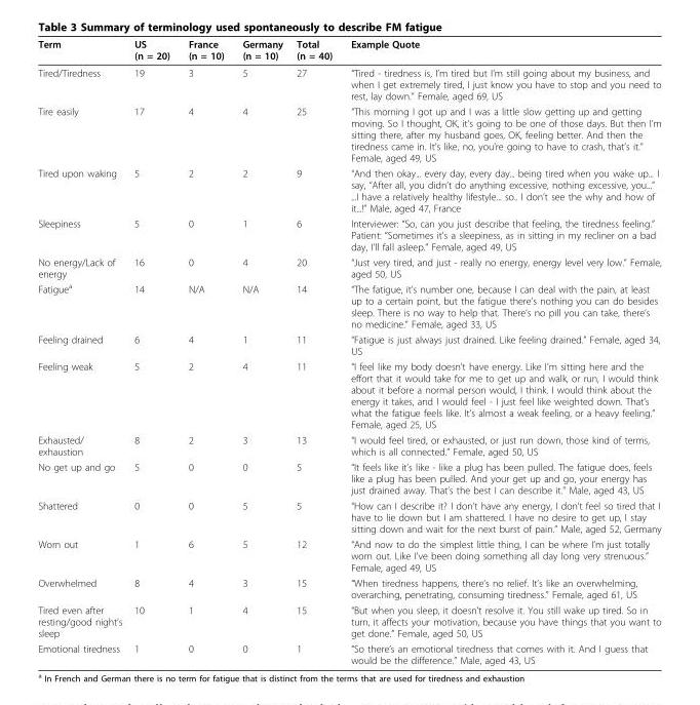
<table><thead><tr><td>Term</td><td>US (n = 20)</td><td>France (n = 10)</td><td>Germany (n = 10)</td><td>Total (n = 40)</td><td>Example Quote</td></tr></thead><tbody><tr><td>Tired/Tiredness</td><td>19</td><td>3</td><td>5</td><td>27</td><td>“Tired - tiredness is, I’m tired but I’m still going about my business, and when I get extremely tired, I just know you have to stop and you need to rest, lay down.” Female, aged 69, US</td></tr><tr><td>Tire easily</td><td>17</td><td>4</td><td>4</td><td>25</td><td>“This morning I got up and I was a little slow getting up and getting moving. So I thought, OK, it’s going to be one of those days. But then I’m sitting there, after my husband goes, OK, feeling better. And then the tiredness came in. It’s like, no, you’re going to have to crash, that’s it.” Female, aged 49, US</td></tr><tr><td>Tired upon waking</td><td>5</td><td>2</td><td>2</td><td>9</td><td>“And then okay... every day, every day... being tired when you wake up... I say, “After all, you didn’t do anything excessive, nothing excessive, you...” ...I have a relatively healthy lifestyle... so.. I don’t see the why and how of it...!” Male, aged 47, France</td></tr><tr><td>Sleepiness</td><td>5</td><td>0</td><td>1</td><td>6</td><td>Interviewer: “So, can you just describe that feeling, the tiredness feeling.” Patient: “Sometimes it’s a sleepiness, as in sitting in my recliner on a bad day, I’ll fall asleep.” Female, aged 49, US</td></tr><tr><td>No energy/Lack of energy</td><td>16</td><td>0</td><td>4</td><td>20</td><td>“Just very tired, and just - really no energy, energy level very low.” Female, aged 50, US</td></tr><tr><td>Fatigue<sup>a</sup></td><td>14</td><td>N/A</td><td>N/A</td><td>14</td><td>“The fatigue, it’s number one, because I can deal with the pain, at least up to a certain point, but the fatigue there’s nothing you can do besides sleep. There is no way to help that. There’s no pill you can take, there’s no medicine.” Female, aged 33, US</td></tr><tr><td>Feeling drained</td><td>6</td><td>4</td><td>1</td><td>11</td><td>“Fatigue is just always just drained. Like feeling drained.” Female, aged 34, US</td></tr><tr><td>Feeling weak</td><td>5</td><td>2</td><td>4</td><td>11</td><td>“I feel like my body doesn’t have energy. Like I’m sitting here and the effort that it would take for me to get up and walk, or run, I would think about it before a normal person would, I think. I would think about the energy it takes, and I would feel - I just feel like weighted down. That’s what the fatigue feels like. It’s almost a weak feeling, or a heavy feeling.” Female, aged 25, US</td></tr><tr><td>Exhausted/ exhaustion</td><td>8</td><td>2</td><td>3</td><td>13</td><td>“I would feel tired, or exhausted, or just run down, those kind of terms, which is all connected.” Female, aged 50, US</td></tr><tr><td>No get up and go</td><td>5</td><td>0</td><td>0</td><td>5</td><td>“It feels like it’s like - like a plug has been pulled. The fatigue does, feels like a plug has been pulled. And your get up and go, your energy has just drained away. That’s the best I can describe it.” Male, aged 43, US</td></tr><tr><td>Shattered</td><td>0</td><td>0</td><td>5</td><td>5</td><td>“How can I describe it? I don’t have any energy, I don’t feel so tired that I have to lie down but I am shattered. I have no desire to get up, I stay sitting down and wait for the next burst of pain.” Male, aged 52, Germany</td></tr><tr><td>Worn out</td><td>1</td><td>6</td><td>5</td><td>12</td><td>“And now to do the simplest little thing, I can be where I’m just totally worn out. Like I’ve been doing something all day long very strenuous.” Female, aged 49, US</td></tr><tr><td>Overwhelmed</td><td>8</td><td>4</td><td>3</td><td>15</td><td>“When tiredness happens, there’s no relief. It’s like an overwhelming, overarching, penetrating, consuming tiredness.” Female, aged 61, US</td></tr><tr><td>Tired even after resting/good night’s sleep</td><td>10</td><td>1</td><td>4</td><td>15</td><td>“But when you sleep, it doesn’t resolve it. You still wake up tired. So in turn, it affects your motivation, because you have things that you want to get done.” Female, aged 50, US</td></tr><tr><td>Emotional tiredness</td><td>1</td><td>0</td><td>0</td><td>1</td><td>“So there’s an emotional tiredness that comes with it. And I guess that would be the difference.” Male, aged 43, US</td></tr></tbody></table>